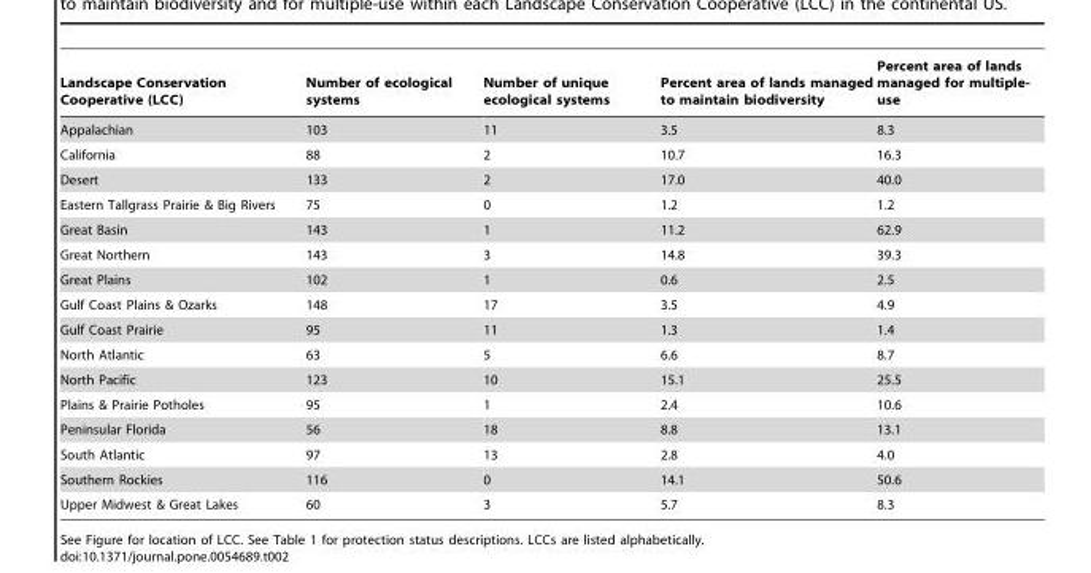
<table><thead><tr><td>Landscape Conservation Cooperative (LCC)</td><td>Number of ecological systems</td><td>Number of unique ecological systems</td><td>Percent area of lands managed to maintain biodiversity</td><td>Percent area of lands managed for multiple- use</td></tr></thead><tbody><tr><td>Appalachian</td><td>103</td><td>11</td><td>3.5</td><td>8.3</td></tr><tr><td>California</td><td>88</td><td>2</td><td>10.7</td><td>16.3</td></tr><tr><td>Desert</td><td>133</td><td>2</td><td>17.0</td><td>40.0</td></tr><tr><td>Eastern Tallgrass Prairie &amp; Big Rivers</td><td>75</td><td>0</td><td>1.2</td><td>1.2</td></tr><tr><td>Great Basin</td><td>143</td><td>1</td><td>11.2</td><td>62.9</td></tr><tr><td>Great Northern</td><td>143</td><td>3</td><td>14.8</td><td>39.3</td></tr><tr><td>Great Plains</td><td>102</td><td>1</td><td>0.6</td><td>2.5</td></tr><tr><td>Gulf Coast Plains &amp; Ozarks</td><td>148</td><td>17</td><td>3.5</td><td>4.9</td></tr><tr><td>Gulf Coast Prairie</td><td>95</td><td>11</td><td>1.3</td><td>1.4</td></tr><tr><td>North Atlantic</td><td>63</td><td>5</td><td>6.6</td><td>8.7</td></tr><tr><td>North Pacific</td><td>123</td><td>10</td><td>15.1</td><td>25.5</td></tr><tr><td>Plains &amp; Prairie Potholes</td><td>95</td><td>1</td><td>2.4</td><td>10.6</td></tr><tr><td>Peninsular Florida</td><td>56</td><td>18</td><td>8.8</td><td>13.1</td></tr><tr><td>South Atlantic</td><td>97</td><td>13</td><td>2.8</td><td>4.0</td></tr><tr><td>Southern Rockies</td><td>116</td><td>0</td><td>14.1</td><td>50.6</td></tr><tr><td>Upper Midwest &amp; Great Lakes</td><td>60</td><td>3</td><td>5.7</td><td>8.3</td></tr></tbody></table>